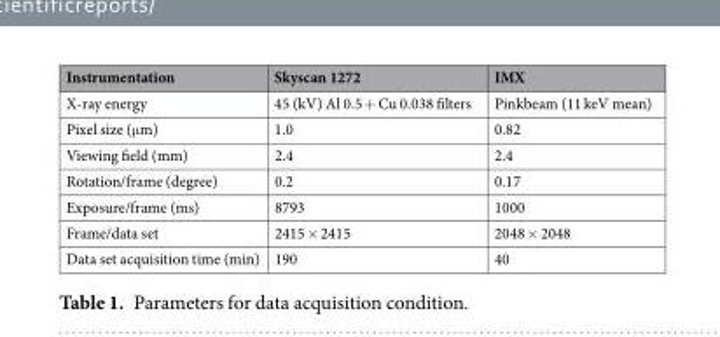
<table><thead><tr><td>Instrumentation</td><td>Skyscan 1272</td><td>IMX</td></tr></thead><tbody><tr><td>X-ray energy</td><td>45 (kV) Al 0.5 + Cu 0.038 filters</td><td>Pinkbeam (11 keV mean)</td></tr><tr><td>Pixel size (μm)</td><td>1.0</td><td>0.82</td></tr><tr><td>Viewing field (mm)</td><td>2.4</td><td>2.4</td></tr><tr><td>Rotation/frame (degree)</td><td>0.2</td><td>0.17</td></tr><tr><td>Exposure/frame (ms)</td><td>8793</td><td>1000</td></tr><tr><td>Frame/data set</td><td>2415 × 2415</td><td>2048 × 2048</td></tr><tr><td>Data set acquisition time (min)</td><td>190</td><td>40</td></tr></tbody></table>